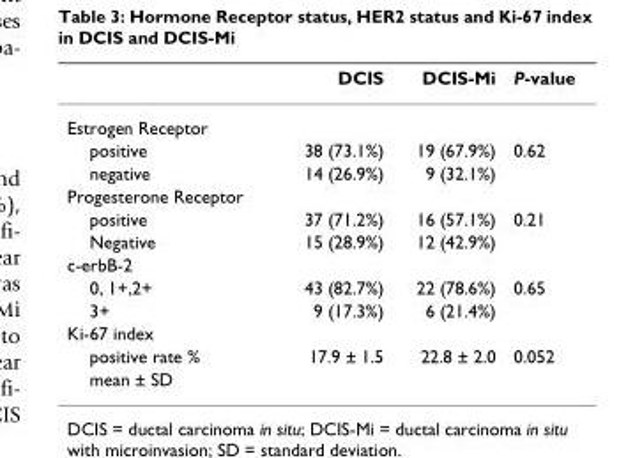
<table><thead><tr><td></td><td>DCIS</td><td>DCIS-Mi</td><td>P-value</td></tr></thead><tbody><tr><td colspan="4">Estrogen Receptor</td></tr><tr><td>positive</td><td>38 (73.1%)</td><td>19 (67.9%)</td><td>0.62</td></tr><tr><td>negative</td><td>14 (26.9%)</td><td>9 (32.1%)</td><td></td></tr><tr><td colspan="4">Progesterone Receptor</td></tr><tr><td>positive</td><td>37 (71.2%)</td><td>16 (57.1%)</td><td>0.21</td></tr><tr><td>Negative</td><td>15 (28.9%)</td><td>12 (42.9%)</td><td></td></tr><tr><td colspan="4">c-erbB-2</td></tr><tr><td>0, 1+,2+</td><td>43 (82.7%)</td><td>22 (78.6%)</td><td>0.65</td></tr><tr><td>3+</td><td>9 (17.3%)</td><td>6 (21.4%)</td><td></td></tr><tr><td colspan="4">Ki-67 index</td></tr><tr><td>positive rate %</td><td>17.9 ± 1.5</td><td>22.8 ± 2.0</td><td>0.052</td></tr><tr><td>mean ± SD</td><td></td><td></td><td></td></tr></tbody></table>